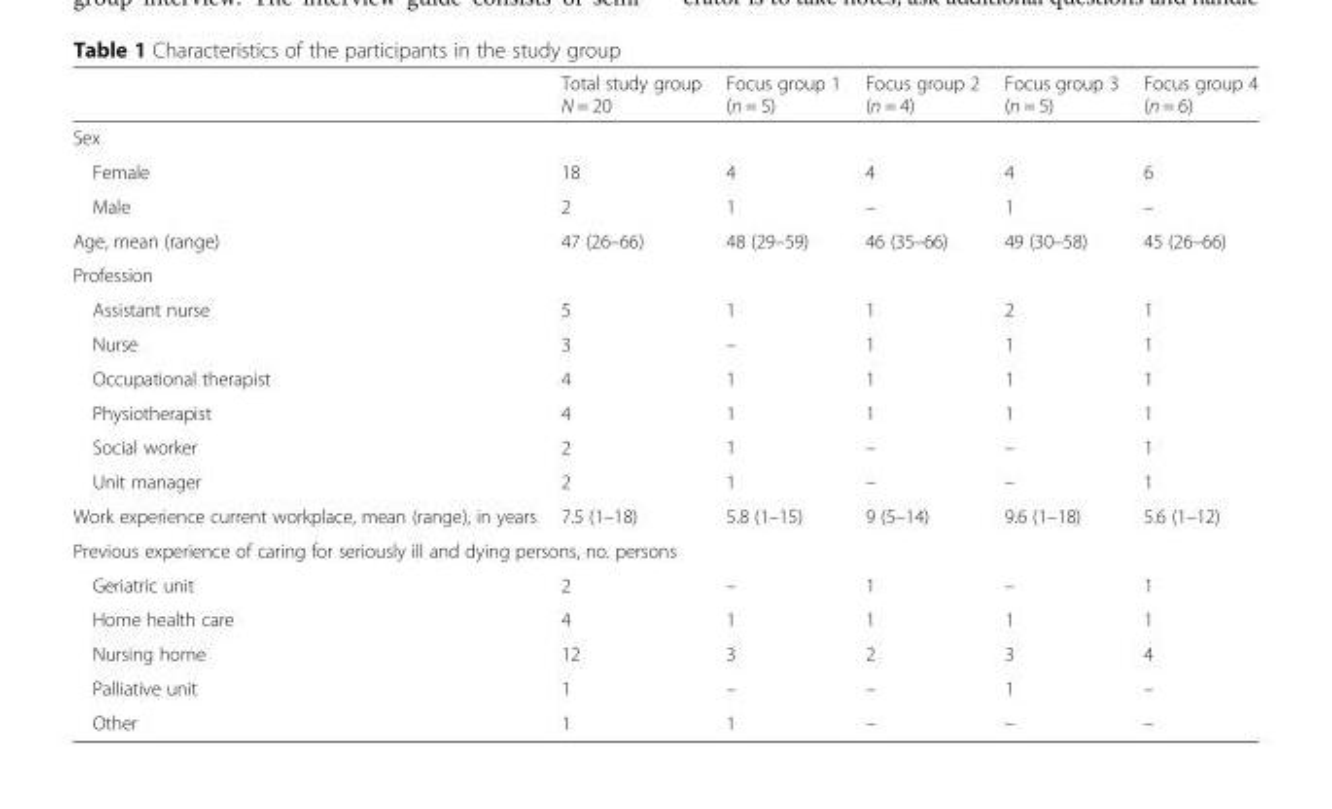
<table><thead><tr><td></td><td>Total study group N = 20</td><td>Focus group 1 (n = 5)</td><td>Focus group 2 (n = 4)</td><td>Focus group 3 (n = 5)</td><td>Focus group 4 (n = 6)</td></tr></thead><tbody><tr><td colspan="6">Sex</td></tr><tr><td>Female</td><td>18</td><td>4</td><td>4</td><td>4</td><td>6</td></tr><tr><td>Male</td><td>2</td><td>1</td><td>–</td><td>1</td><td>–</td></tr><tr><td>Age, mean (range)</td><td>47 (26–66)</td><td>48 (29–59)</td><td>46 (35–66)</td><td>49 (30–58)</td><td>45 (26–66)</td></tr><tr><td colspan="6">Profession</td></tr><tr><td>Assistant nurse</td><td>5</td><td>1</td><td>1</td><td>2</td><td>1</td></tr><tr><td>Nurse</td><td>3</td><td>–</td><td>1</td><td>1</td><td>1</td></tr><tr><td>Occupational therapist</td><td>4</td><td>1</td><td>1</td><td>1</td><td>1</td></tr><tr><td>Physiotherapist</td><td>4</td><td>1</td><td>1</td><td>1</td><td>1</td></tr><tr><td>Social worker</td><td>2</td><td>1</td><td>–</td><td>–</td><td>1</td></tr><tr><td>Unit manager</td><td>2</td><td>1</td><td>–</td><td>–</td><td>1</td></tr><tr><td>Work experience current workplace, mean (range), in years</td><td>7.5 (1–18)</td><td>5.8 (1–15)</td><td>9 (5–14)</td><td>9.6 (1–18)</td><td>5.6 (1–12)</td></tr><tr><td colspan="6">Previous experience of caring for seriously ill and dying persons, no. persons</td></tr><tr><td>Geriatric unit</td><td>2</td><td>–</td><td>1</td><td>–</td><td>1</td></tr><tr><td>Home health care</td><td>4</td><td>1</td><td>1</td><td>1</td><td>1</td></tr><tr><td>Nursing home</td><td>12</td><td>3</td><td>2</td><td>3</td><td>4</td></tr><tr><td>Palliative unit</td><td>1</td><td>–</td><td>–</td><td>1</td><td>–</td></tr><tr><td>Other</td><td>1</td><td>1</td><td>–</td><td>–</td><td>–</td></tr></tbody></table>